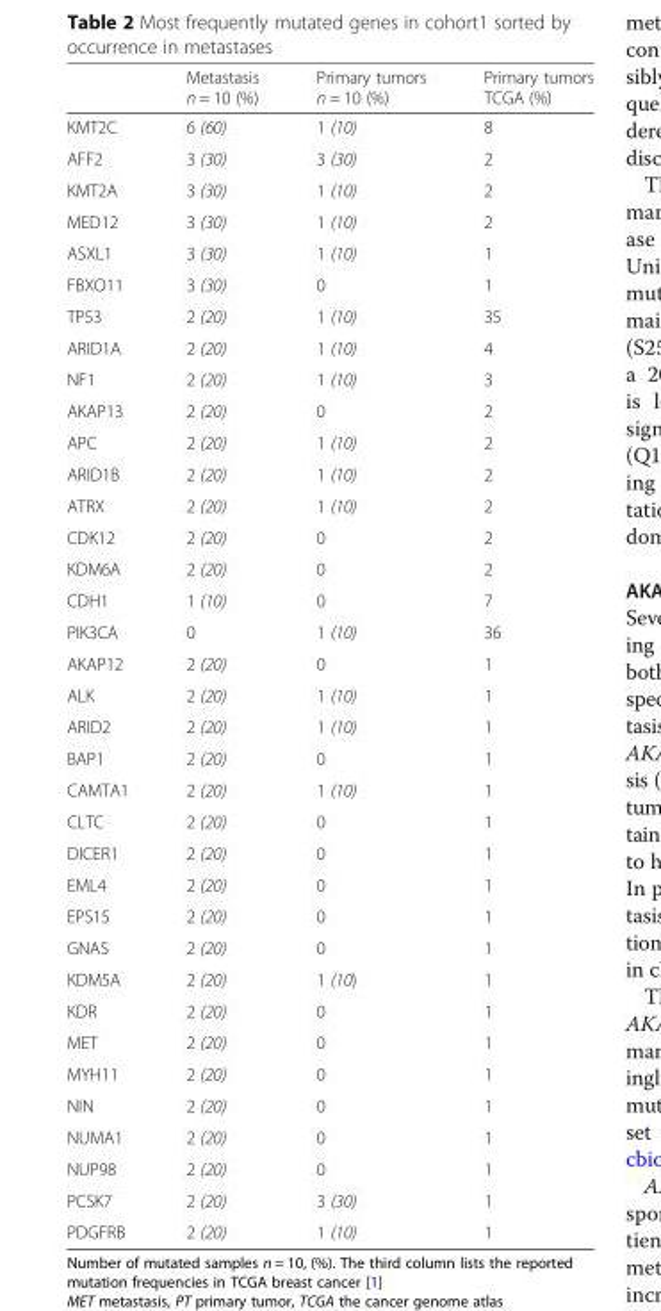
<table><thead><tr><td></td><td>Metastasis n = 10 (%)</td><td>Primary tumors n = 10 (%)</td><td>Primary tumors TCGA (%)</td></tr></thead><tbody><tr><td>KMT2C</td><td>6 (60)</td><td>1 (10)</td><td>8</td></tr><tr><td>AFF2</td><td>3 (30)</td><td>3 (30)</td><td>2</td></tr><tr><td>KMT2A</td><td>3 (30)</td><td>1 (10)</td><td>2</td></tr><tr><td>MED12</td><td>3 (30)</td><td>1 (10)</td><td>2</td></tr><tr><td>ASXL1</td><td>3 (30)</td><td>1 (10)</td><td>1</td></tr><tr><td>FBXO11</td><td>3 (30)</td><td>0</td><td>1</td></tr><tr><td>TP53</td><td>2 (20)</td><td>1 (10)</td><td>35</td></tr><tr><td>ARID1A</td><td>2 (20)</td><td>1 (10)</td><td>4</td></tr><tr><td>NF1</td><td>2 (20)</td><td>1 (10)</td><td>3</td></tr><tr><td>AKAP13</td><td>2 (20)</td><td>0</td><td>2</td></tr><tr><td>APC</td><td>2 (20)</td><td>1 (10)</td><td>2</td></tr><tr><td>ARID1B</td><td>2 (20)</td><td>1 (10)</td><td>2</td></tr><tr><td>ATRX</td><td>2 (20)</td><td>1 (10)</td><td>2</td></tr><tr><td>CDK12</td><td>2 (20)</td><td>0</td><td>2</td></tr><tr><td>KDM6A</td><td>2 (20)</td><td>0</td><td>2</td></tr><tr><td>CDH1</td><td>1 (10)</td><td>0</td><td>7</td></tr><tr><td>PIK3CA</td><td>0</td><td>1 (10)</td><td>36</td></tr><tr><td>AKAP12</td><td>2 (20)</td><td>0</td><td>1</td></tr><tr><td>ALK</td><td>2 (20)</td><td>1 (10)</td><td>1</td></tr><tr><td>ARID2</td><td>2 (20)</td><td>1 (10)</td><td>1</td></tr><tr><td>BAP1</td><td>2 (20)</td><td>0</td><td>1</td></tr><tr><td>CAMTA1</td><td>2 (20)</td><td>1 (10)</td><td>1</td></tr><tr><td>CLTC</td><td>2 (20)</td><td>0</td><td>1</td></tr><tr><td>DICER1</td><td>2 (20)</td><td>0</td><td>1</td></tr><tr><td>EML4</td><td>2 (20)</td><td>0</td><td>1</td></tr><tr><td>EPS15</td><td>2 (20)</td><td>0</td><td>1</td></tr><tr><td>GNAS</td><td>2 (20)</td><td>0</td><td>1</td></tr><tr><td>KDM5A</td><td>2 (20)</td><td>1 (10)</td><td>1</td></tr><tr><td>KDR</td><td>2 (20)</td><td>0</td><td>1</td></tr><tr><td>MET</td><td>2 (20)</td><td>0</td><td>1</td></tr><tr><td>MYH11</td><td>2 (20)</td><td>0</td><td>1</td></tr><tr><td>NIN</td><td>2 (20)</td><td>0</td><td>1</td></tr><tr><td>NUMA1</td><td>2 (20)</td><td>0</td><td>1</td></tr><tr><td>NUP98</td><td>2 (20)</td><td>0</td><td>1</td></tr><tr><td>PCSK7</td><td>2 (20)</td><td>3 (30)</td><td>1</td></tr><tr><td>PDGFRB</td><td>2 (20)</td><td>1 (10)</td><td>1</td></tr></tbody></table>